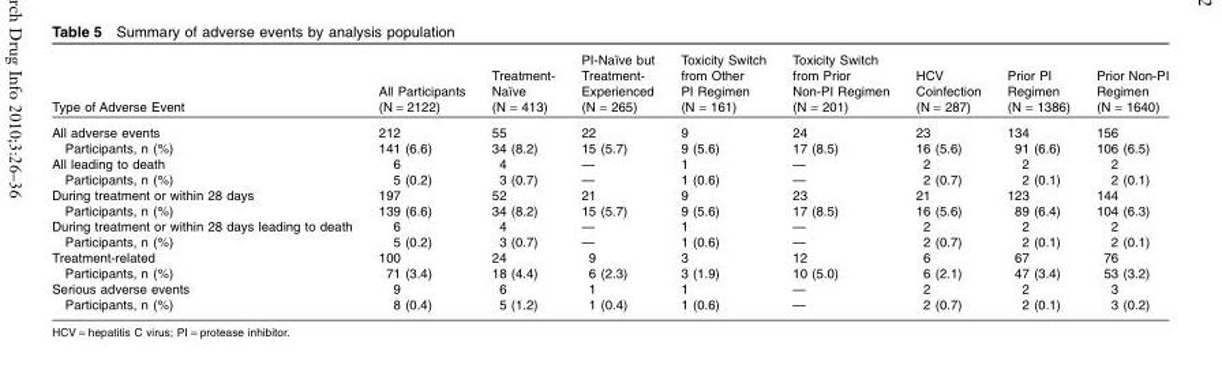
<table><thead><tr><td>Type of Adverse Event</td><td>All Participants (N = 2122)</td><td>Treatment- Naïve (N = 413)</td><td>PI-Naïve but Treatment- Experienced (N = 265)</td><td>Toxicity Switch from Other PI Regimen (N = 161)</td><td>Toxicity Switch from Prior Non-PI Regimen (N = 201)</td><td>HCV Coinfection (N = 287)</td><td>Prior PI Regimen (N = 1386)</td><td>Prior Non-PI Regimen (N = 1640)</td></tr></thead><tbody><tr><td>All adverse events</td><td>212</td><td>55</td><td>22</td><td>9</td><td>24</td><td>23</td><td>134</td><td>156</td></tr><tr><td>Participants, n (%)</td><td>141 (6.6)</td><td>34 (8.2)</td><td>15 (5.7)</td><td>9 (5.6)</td><td>17 (8.5)</td><td>16 (5.6)</td><td>91 (6.6)</td><td>106 (6.5)</td></tr><tr><td>All leading to death</td><td>6</td><td>4</td><td>—</td><td>1</td><td>—</td><td>2</td><td>2</td><td>2</td></tr><tr><td>Participants, n (%)</td><td>5 (0.2)</td><td>3 (0.7)</td><td>—</td><td>1 (0.6)</td><td>—</td><td>2 (0.7)</td><td>2 (0.1)</td><td>2 (0.1)</td></tr><tr><td>During treatment or within 28 days</td><td>197</td><td>52</td><td>21</td><td>9</td><td>23</td><td>21</td><td>123</td><td>144</td></tr><tr><td>Participants, n (%)</td><td>139 (6.6)</td><td>34 (8.2)</td><td>15 (5.7)</td><td>9 (5.6)</td><td>17 (8.5)</td><td>16 (5.6)</td><td>89 (6.4)</td><td>104 (6.3)</td></tr><tr><td>During treatment or within 28 days leading to death</td><td>6</td><td>4</td><td>—</td><td>1</td><td>—</td><td>2</td><td>2</td><td>2</td></tr><tr><td>Participants, n (%)</td><td>5 (0.2)</td><td>3 (0.7)</td><td>—</td><td>1 (0.6)</td><td>—</td><td>2 (0.7)</td><td>2 (0.1)</td><td>2 (0.1)</td></tr><tr><td>Treatment-related</td><td>100</td><td>24</td><td>9</td><td>3</td><td>12</td><td>6</td><td>67</td><td>76</td></tr><tr><td>Participants, n (%)</td><td>71 (3.4)</td><td>18 (4.4)</td><td>6 (2.3)</td><td>3 (1.9)</td><td>10 (5.0)</td><td>6 (2.1)</td><td>47 (3.4)</td><td>53 (3.2)</td></tr><tr><td>Serious adverse events</td><td>9</td><td>6</td><td>1</td><td>1</td><td>—</td><td>2</td><td>2</td><td>3</td></tr><tr><td>Participants, n (%)</td><td>8 (0.4)</td><td>5 (1.2)</td><td>1 (0.4)</td><td>1 (0.6)</td><td>—</td><td>2 (0.7)</td><td>2 (0.1)</td><td>3 (0.2)</td></tr></tbody></table>